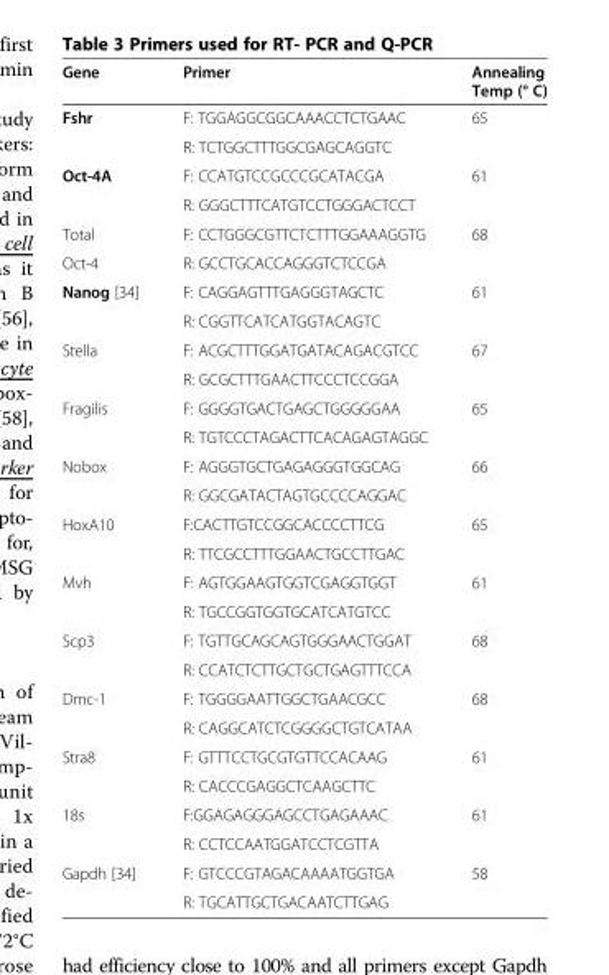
<table><thead><tr><td>Gene</td><td>Primer</td><td>Annealing Temp (° C)</td></tr></thead><tbody><tr><td rowspan="2">Fshr</td><td>F: TGGAGGCGGCAAACCTCTGAAC</td><td rowspan="2">65</td></tr><tr><td>R: TCTGGCTTTGGCGAGCAGGTC</td></tr><tr><td rowspan="2">Oct-4A</td><td>F: CCATGTCCGCCCGCATACGA</td><td rowspan="2">61</td></tr><tr><td>R: GGGCTTTCATGTCCTGGGACTCCT</td></tr><tr><td>Total</td><td>F: CCTGGGCGTTCTCTTTGGAAAGGTG</td><td rowspan="2">68</td></tr><tr><td>Oct-4</td><td>R: GCCTGCACCAGGGTCTCCGA</td></tr><tr><td rowspan="2">Nanog [34]</td><td>F: CAGGAGTTTGAGGGTAGCTC</td><td rowspan="2">61</td></tr><tr><td>R: CGGTTCATCATGGTACAGTC</td></tr><tr><td rowspan="2">Stella</td><td>F: ACGCTTTGGATGATACAGACGTCC</td><td rowspan="2">67</td></tr><tr><td>R: GCGCTTTGAACTTCCCTCCGGA</td></tr><tr><td rowspan="2">Fragilis</td><td>F: GGGGTGACTGAGCTGGGGGAA</td><td rowspan="2">65</td></tr><tr><td>R: TGTCCCTAGACTTCACAGAGTAGGC</td></tr><tr><td rowspan="2">Nobox</td><td>F: AGGGTGCTGAGAGGGTGGCAG</td><td rowspan="2">66</td></tr><tr><td>R: GGCGATACTAGTGCCCCAGGAC</td></tr><tr><td rowspan="2">HoxA10</td><td>F:CACTTGTCCGGCACCCCTTCG</td><td rowspan="2">65</td></tr><tr><td>R: TTCGCCTTTGGAACTGCCTTGAC</td></tr><tr><td rowspan="2">Mvh</td><td>F: AGTGGAAGTGGTCGAGGTGGT</td><td rowspan="2">61</td></tr><tr><td>R: TGCCGGTGGTGCATCATGTCC</td></tr><tr><td rowspan="2">Scp3</td><td>F: TGTTGCAGCAGTGGGAACTGGAT</td><td rowspan="2">68</td></tr><tr><td>R: CCATCTCTTGCTGCTGAGTTTCCA</td></tr><tr><td rowspan="2">Dmc-1</td><td>F: TGGGGAATTGGCTGAACGCC</td><td rowspan="2">68</td></tr><tr><td>R: CAGGCATCTCGGGGCTGTCATAA</td></tr><tr><td rowspan="2">Stra8</td><td>F: GTTTCCTGCGTGTTCCACAAG</td><td rowspan="2">61</td></tr><tr><td>R: CACCCGAGGCTCAAGCTTC</td></tr><tr><td rowspan="2">18s</td><td>F:GGAGAGGGAGCCTGAGAAAC</td><td rowspan="2">61</td></tr><tr><td>R: CCTCCAATGGATCCTCGTTA</td></tr><tr><td rowspan="2">Gapdh [34]</td><td>F: GTCCCGTAGACAAAATGGTGA</td><td>58</td></tr><tr><td>R: TGCATTGCTGACAATCTTGAG</td><td></td></tr></tbody></table>